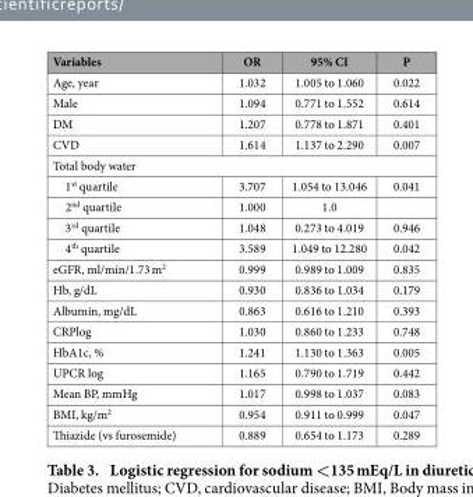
<table><thead><tr><td>Variables</td><td>OR</td><td>95% CI</td><td>P</td></tr></thead><tbody><tr><td>Age, year</td><td>1.032</td><td>1.005 to 1.060</td><td>0.022</td></tr><tr><td>Male</td><td>1.094</td><td>0.771 to 1.552</td><td>0.614</td></tr><tr><td>DM</td><td>1.207</td><td>0.778 to 1.871</td><td>0.401</td></tr><tr><td>CVD</td><td>1.614</td><td>1.137 to 2.290</td><td>0.007</td></tr><tr><td colspan="4">Total body water</td></tr><tr><td>1<sup>st</sup> quartile</td><td>3.707</td><td>1.054 to 13.046</td><td>0.041</td></tr><tr><td>2<sup>nd</sup> quartile</td><td>1.000</td><td>1.0</td><td></td></tr><tr><td>3<sup>rd</sup> quartile</td><td>1.048</td><td>0.273 to 4.019</td><td>0.946</td></tr><tr><td>4<sup>th</sup> quartile</td><td>3.589</td><td>1.049 to 12.280</td><td>0.042</td></tr><tr><td>eGFR, ml/min/1.73 m<sup>2</sup></td><td>0.999</td><td>0.989 to 1.009</td><td>0.835</td></tr><tr><td>Hb, g/dL</td><td>0.930</td><td>0.836 to 1.034</td><td>0.179</td></tr><tr><td>Albumin, mg/dL</td><td>0.863</td><td>0.616 to 1.210</td><td>0.393</td></tr><tr><td>CRPlog</td><td>1.030</td><td>0.860 to 1.233</td><td>0.748</td></tr><tr><td>HbA1c, %</td><td>1.241</td><td>1.130 to 1.363</td><td>0.005</td></tr><tr><td>UPCR log</td><td>1.165</td><td>0.790 to 1.719</td><td>0.442</td></tr><tr><td>Mean BP, mmHg</td><td>1.017</td><td>0.998 to 1.037</td><td>0.083</td></tr><tr><td>BMI, kg/m<sup>2</sup></td><td>0.954</td><td>0.911 to 0.999</td><td>0.047</td></tr><tr><td>Thiazide (vs furosemide)</td><td>0.889</td><td>0.654 to 1.173</td><td>0.289</td></tr></tbody></table>